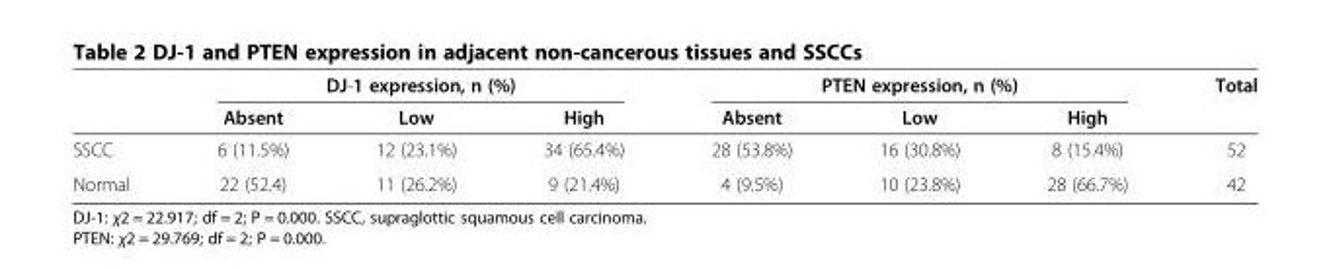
<table><thead><tr><td rowspan="2"></td><td colspan="3">DJ-1 expression, n (%)</td><td colspan="3">PTEN expression, n (%)</td><td rowspan="2">Total</td></tr><tr><td>Absent</td><td>Low</td><td>High</td><td>Absent</td><td>Low</td><td>High</td></tr></thead><tbody><tr><td>SSCC</td><td>6 (11.5%)</td><td>12 (23.1%)</td><td>34 (65.4%)</td><td>28 (53.8%)</td><td>16 (30.8%)</td><td>8 (15.4%)</td><td>52</td></tr><tr><td>Normal</td><td>22 (52.4)</td><td>11 (26.2%)</td><td>9 (21.4%)</td><td>4 (9.5%)</td><td>10 (23.8%)</td><td>28 (66.7%)</td><td>42</td></tr></tbody></table>